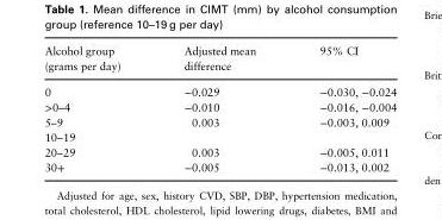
<table><thead><tr><td>Alcohol group (grams per day)</td><td>Adjusted mean difference</td><td>95% CI</td></tr></thead><tbody><tr><td>0</td><td>−0.029</td><td>−0.030, −0.024</td></tr><tr><td>&gt;0–4</td><td>−0.010</td><td>−0.016, −0.004</td></tr><tr><td>5–9</td><td>0.003</td><td>−0.003, 0.009</td></tr><tr><td colspan="3">10–19</td></tr><tr><td>20–29</td><td>0.003</td><td>−0.005, 0.011</td></tr><tr><td>30+</td><td>−0.005</td><td>−0.013, 0.002</td></tr></tbody></table>